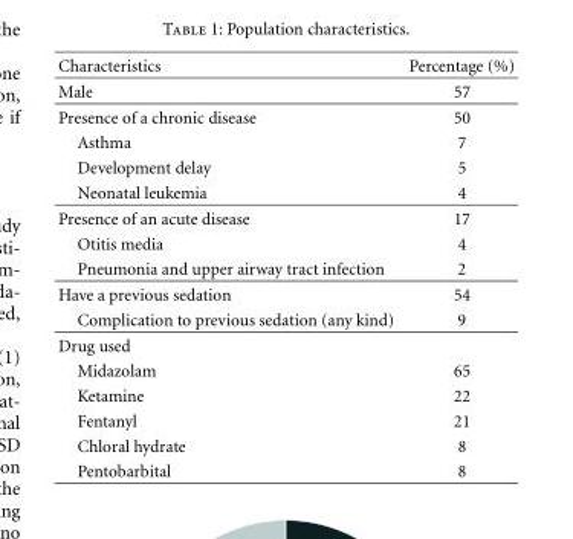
<table><thead><tr><td>Characteristics</td><td>Percentage (%)</td></tr></thead><tbody><tr><td>Male</td><td>57</td></tr><tr><td>Presence of a chronic disease</td><td>50</td></tr><tr><td>Asthma</td><td>7</td></tr><tr><td>Development delay</td><td>5</td></tr><tr><td>Neonatal leukemia</td><td>4</td></tr><tr><td>Presence of an acute disease</td><td>17</td></tr><tr><td>Otitis media</td><td>4</td></tr><tr><td>Pneumonia and upper airway tract infection</td><td>2</td></tr><tr><td>Have a previous sedation</td><td>54</td></tr><tr><td>Complication to previous sedation (any kind)</td><td>9</td></tr><tr><td colspan="2">Drug used</td></tr><tr><td>Midazolam</td><td>65</td></tr><tr><td>Ketamine</td><td>22</td></tr><tr><td>Fentanyl</td><td>21</td></tr><tr><td>Chloral hydrate</td><td>8</td></tr><tr><td>Pentobarbital</td><td>8</td></tr></tbody></table>